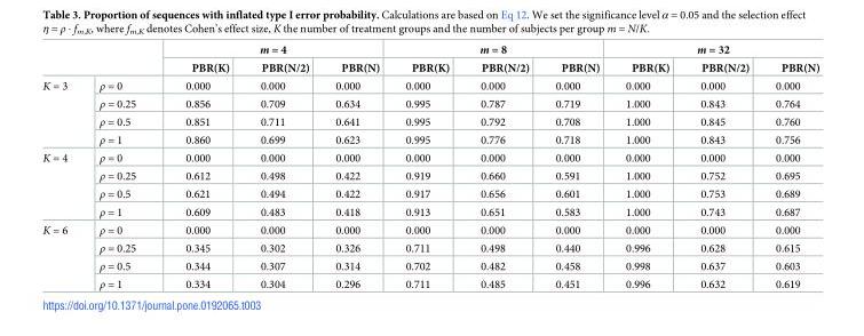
<table><thead><tr><td rowspan="2"></td><td rowspan="2"></td><td colspan="3">m = 4</td><td colspan="3">m = 8</td><td colspan="3">m = 32</td></tr><tr><td>PBR(K)</td><td>PBR(N/2)</td><td>PBR(N)</td><td>PBR(K)</td><td>PBR(N/2)</td><td>PBR(N)</td><td>PBR(K)</td><td>PBR(N/2)</td><td>PBR(N)</td></tr></thead><tbody><tr><td rowspan="4">K = 3</td><td>ρ = 0</td><td>0.000</td><td>0.000</td><td>0.000</td><td>0.000</td><td>0.000</td><td>0.000</td><td>0.000</td><td>0.000</td><td>0.000</td></tr><tr><td>ρ = 0.25</td><td>0.856</td><td>0.709</td><td>0.634</td><td>0.995</td><td>0.787</td><td>0.719</td><td>1.000</td><td>0.843</td><td>0.764</td></tr><tr><td>ρ = 0.5</td><td>0.851</td><td>0.711</td><td>0.641</td><td>0.995</td><td>0.792</td><td>0.708</td><td>1.000</td><td>0.845</td><td>0.760</td></tr><tr><td>ρ = 1</td><td>0.860</td><td>0.699</td><td>0.623</td><td>0.995</td><td>0.776</td><td>0.718</td><td>1.000</td><td>0.843</td><td>0.756</td></tr><tr><td rowspan="4">K = 4</td><td>ρ = 0</td><td>0.000</td><td>0.000</td><td>0.000</td><td>0.000</td><td>0.000</td><td>0.000</td><td>0.000</td><td>0.000</td><td>0.000</td></tr><tr><td>ρ = 0.25</td><td>0.612</td><td>0.498</td><td>0.422</td><td>0.919</td><td>0.660</td><td>0.591</td><td>1.000</td><td>0.752</td><td>0.695</td></tr><tr><td>ρ = 0.5</td><td>0.621</td><td>0.494</td><td>0.422</td><td>0.917</td><td>0.656</td><td>0.601</td><td>1.000</td><td>0.753</td><td>0.689</td></tr><tr><td>ρ = 1</td><td>0.609</td><td>0.483</td><td>0.418</td><td>0.913</td><td>0.651</td><td>0.583</td><td>1.000</td><td>0.743</td><td>0.687</td></tr><tr><td rowspan="4">K = 6</td><td>ρ = 0</td><td>0.000</td><td>0.000</td><td>0.000</td><td>0.000</td><td>0.000</td><td>0.000</td><td>0.000</td><td>0.000</td><td>0.000</td></tr><tr><td>ρ = 0.25</td><td>0.345</td><td>0.302</td><td>0.326</td><td>0.711</td><td>0.498</td><td>0.440</td><td>0.996</td><td>0.628</td><td>0.615</td></tr><tr><td>ρ = 0.5</td><td>0.344</td><td>0.307</td><td>0.314</td><td>0.702</td><td>0.482</td><td>0.458</td><td>0.998</td><td>0.637</td><td>0.603</td></tr><tr><td>ρ = 1</td><td>0.334</td><td>0.304</td><td>0.296</td><td>0.711</td><td>0.485</td><td>0.451</td><td>0.996</td><td>0.632</td><td>0.619</td></tr></tbody></table>